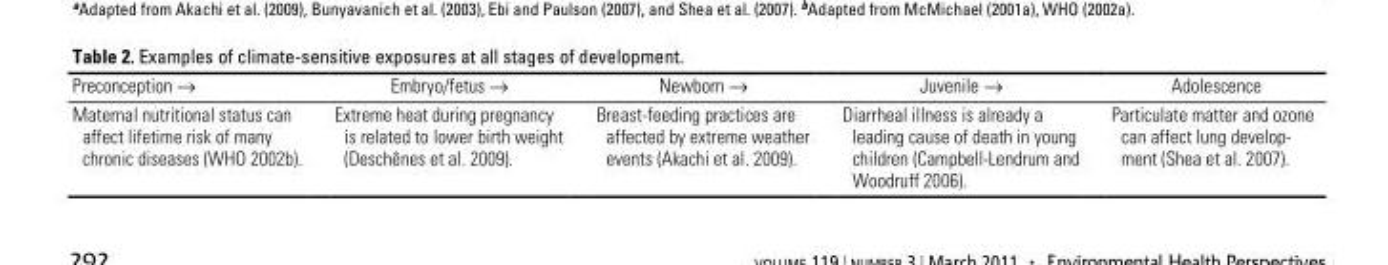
<table><thead><tr><td>Preconception →</td><td>Embryo/fetus →</td><td>Newborn →</td><td>Juvenile →</td><td>Adolescence</td></tr></thead><tbody><tr><td>Maternal nutritional status can affect lifetime risk of many chronic diseases (WHO 2002b).</td><td>Extreme heat during pregnancy is related to lower birth weight (Deschênes et al. 2009).</td><td>Breast-feeding practices are affected by extreme weather events (Akachi et al. 2009).</td><td>Diarrheal illness is already a leading cause of death in young children (Campbell-Lendrum and Woodruff 2006).</td><td>Particulate matter and ozone can affect lung develop- ment (Shea et al. 2007).</td></tr></tbody></table>